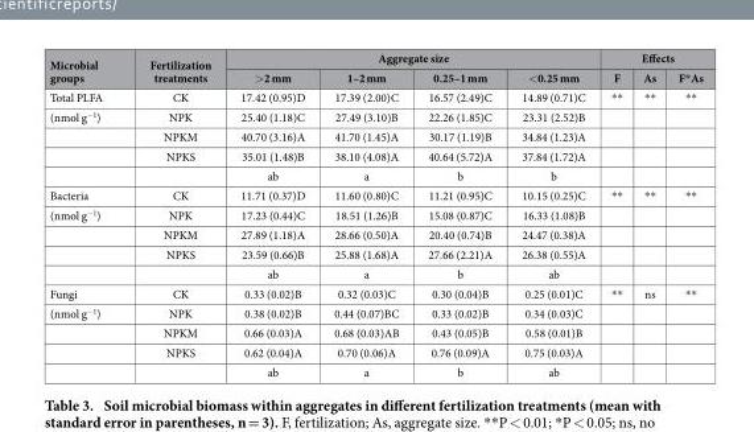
<table><thead><tr><td rowspan="2">Microbial groups</td><td rowspan="2">Fertilization treatments</td><td colspan="4">Aggregate size</td><td colspan="3">Effects</td></tr><tr><td>&gt;2 mm</td><td>1–2 mm</td><td>0.25–1 mm</td><td>&lt;0.25 mm</td><td>F</td><td>As</td><td>F*As</td></tr></thead><tbody><tr><td>Total PLFA</td><td>CK</td><td>17.42 (0.95)D</td><td>17.39 (2.00)C</td><td>16.57 (2.49)C</td><td>14.89 (0.71)C</td><td>**</td><td>**</td><td>**</td></tr><tr><td rowspan="4">(nmol g<sup>−1</sup>)</td><td>NPK</td><td>25.40 (1.18)C</td><td>27.49 (3.10)B</td><td>22.26 (1.85)C</td><td>23.31 (2.52)B</td><td></td><td></td><td></td></tr><tr><td>NPKM</td><td>40.70 (3.16)A</td><td>41.70 (1.45)A</td><td>30.17 (1.19)B</td><td>34.84 (1.23)A</td><td></td><td></td><td></td></tr><tr><td>NPKS</td><td>35.01 (1.48)B</td><td>38.10 (4.08)A</td><td>40.64 (5.72)A</td><td>37.84 (1.72)A</td><td></td><td></td><td></td></tr><tr><td></td><td>ab</td><td>a</td><td>b</td><td>b</td><td></td><td></td><td></td></tr><tr><td>Bacteria</td><td>CK</td><td>11.71 (0.37)D</td><td>11.60 (0.80)C</td><td>11.21 (0.95)C</td><td>10.15 (0.25)C</td><td>**</td><td>**</td><td>**</td></tr><tr><td rowspan="4">(nmol g<sup>−1</sup>)</td><td>NPK</td><td>17.23 (0.44)C</td><td>18.51 (1.26)B</td><td>15.08 (0.87)C</td><td>16.33 (1.08)B</td><td></td><td></td><td></td></tr><tr><td>NPKM</td><td>27.89 (1.18)A</td><td>28.66 (0.50)A</td><td>20.40 (0.74)B</td><td>24.47 (0.38)A</td><td></td><td></td><td></td></tr><tr><td>NPKS</td><td>23.59 (0.66)B</td><td>25.88 (1.68)A</td><td>27.66 (2.21)A</td><td>26.38 (0.55)A</td><td></td><td></td><td></td></tr><tr><td></td><td>ab</td><td>a</td><td>b</td><td>ab</td><td></td><td></td><td></td></tr><tr><td>Fungi</td><td>CK</td><td>0.33 (0.02)B</td><td>0.32 (0.03)C</td><td>0.30 (0.04)B</td><td>0.25 (0.01)C</td><td>**</td><td>ns</td><td>**</td></tr><tr><td rowspan="4">(nmol g<sup>−1</sup>)</td><td>NPK</td><td>0.38 (0.02)B</td><td>0.44 (0.07)BC</td><td>0.33 (0.02)B</td><td>0.34 (0.03)C</td><td></td><td></td><td></td></tr><tr><td>NPKM</td><td>0.66 (0.03)A</td><td>0.68 (0.03)AB</td><td>0.43 (0.05)B</td><td>0.58 (0.01)B</td><td></td><td></td><td></td></tr><tr><td>NPKS</td><td>0.62 (0.04)A</td><td>0.70 (0.06)A</td><td>0.76 (0.09)A</td><td>0.75 (0.03)A</td><td></td><td></td><td></td></tr><tr><td></td><td>ab</td><td>a</td><td>b</td><td>ab</td><td></td><td></td><td></td></tr></tbody></table>